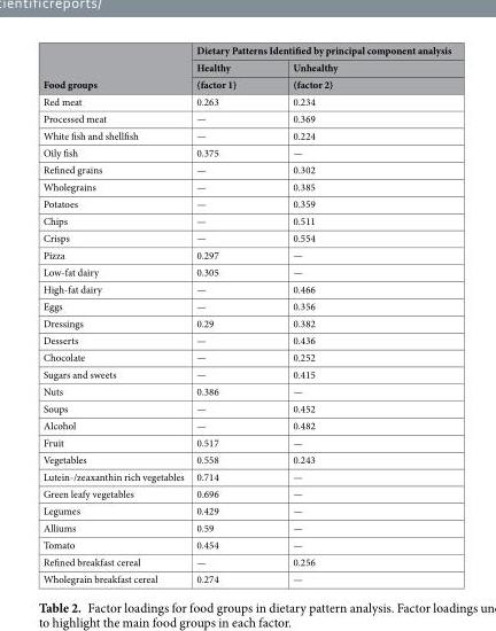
<table><thead><tr><td rowspan="3">Food groups</td><td colspan="2">Dietary Patterns Identified by principal component analysis</td></tr><tr><td rowspan="2">Healthy (factor 1)</td><td rowspan="2">Unhealthy (factor 2)</td></tr><tr></tr></thead><tbody><tr><td>Red meat</td><td>0.263</td><td>0.234</td></tr><tr><td>Processed meat</td><td>—</td><td>0.369</td></tr><tr><td>White fish and shellfish</td><td>—</td><td>0.224</td></tr><tr><td>Oily fish</td><td>0.375</td><td>—</td></tr><tr><td>Refined grains</td><td>—</td><td>0.302</td></tr><tr><td>Wholegrains</td><td>—</td><td>0.385</td></tr><tr><td>Potatoes</td><td>—</td><td>0.359</td></tr><tr><td>Chips</td><td>—</td><td>0.511</td></tr><tr><td>Crisps</td><td>—</td><td>0.554</td></tr><tr><td>Pizza</td><td>0.297</td><td>—</td></tr><tr><td>Low-fat dairy</td><td>0.305</td><td>—</td></tr><tr><td>High-fat dairy</td><td>—</td><td>0.466</td></tr><tr><td>Eggs</td><td>—</td><td>0.356</td></tr><tr><td>Dressings</td><td>0.29</td><td>0.382</td></tr><tr><td>Desserts</td><td>—</td><td>0.436</td></tr><tr><td>Chocolate</td><td>—</td><td>0.252</td></tr><tr><td>Sugars and sweets</td><td>—</td><td>0.415</td></tr><tr><td>Nuts</td><td>0.386</td><td>—</td></tr><tr><td>Soups</td><td>—</td><td>0.452</td></tr><tr><td>Alcohol</td><td>—</td><td>0.482</td></tr><tr><td>Fruit</td><td>0.517</td><td>—</td></tr><tr><td>Vegetables</td><td>0.558</td><td>0.243</td></tr><tr><td>Lutein-/zeaxanthin rich vegetables</td><td>0.714</td><td>—</td></tr><tr><td>Green leafy vegetables</td><td>0.696</td><td>—</td></tr><tr><td>Legumes</td><td>0.429</td><td>—</td></tr><tr><td>Alliums</td><td>0.59</td><td>—</td></tr><tr><td>Tomato</td><td>0.454</td><td>—</td></tr><tr><td>Refined breakfast cereal</td><td>—</td><td>0.256</td></tr><tr><td>Wholegrain breakfast cereal</td><td>0.274</td><td>—</td></tr></tbody></table>